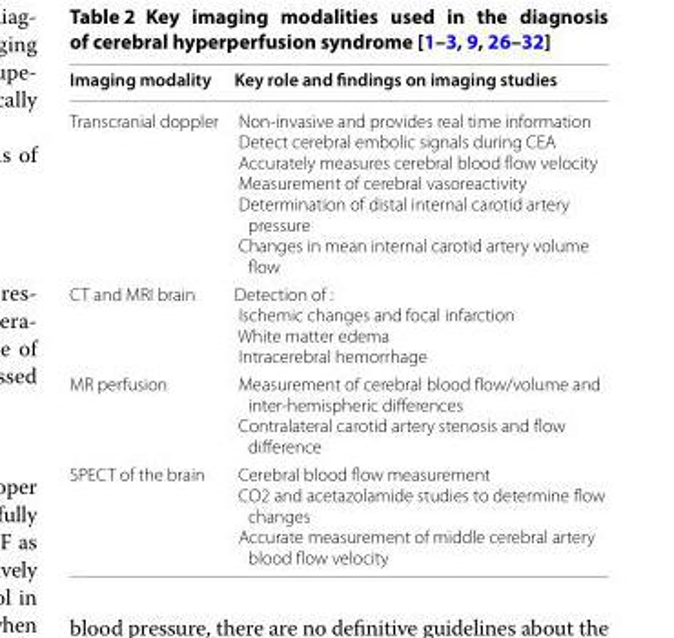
<table><thead><tr><td>Imaging modality</td><td>Key role and findings on imaging studies</td></tr></thead><tbody><tr><td>Transcranial doppler</td><td>Non-invasive and provides real time information Detect cerebral embolic signals during CEA Accurately measures cerebral blood flow velocity Measurement of cerebral vasoreactivity Determination of distal internal carotid artery pressure Changes in mean internal carotid artery volume flow</td></tr><tr><td>CT and MRI brain</td><td>Detection of : Ischemic changes and focal infarction White matter edema Intracerebral hemorrhage</td></tr><tr><td>MR perfusion</td><td>Measurement of cerebral blood flow/volume and inter-hemispheric differences Contralateral carotid artery stenosis and flow difference</td></tr><tr><td>SPECT of the brain</td><td>Cerebral blood flow measurement CO2 and acetazolamide studies to determine flow changes Accurate measurement of middle cerebral artery blood flow velocity</td></tr></tbody></table>